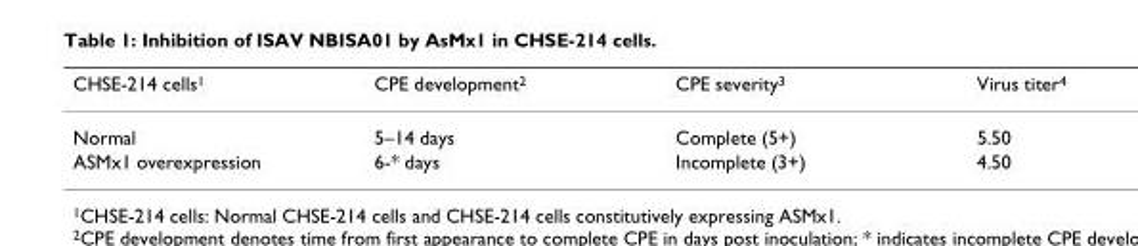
<table><thead><tr><td>CHSE-214 cells<sup>1</sup></td><td>CPE development<sup>2</sup></td><td>CPE severity<sup>3</sup></td><td>Virus titer<sup>4</sup></td></tr></thead><tbody><tr><td>Normal</td><td>5–14 days</td><td>Complete (5+)</td><td>5.50</td></tr><tr><td>ASMx1 overexpression</td><td>6-* days</td><td>Incomplete (3+)</td><td>4.50</td></tr></tbody></table>